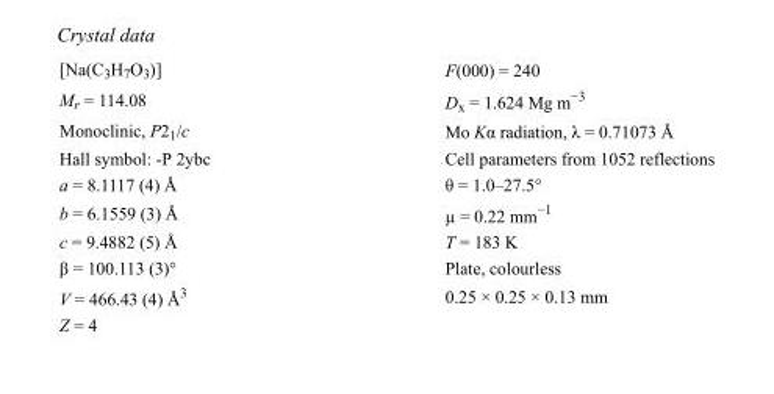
<table><tbody><tr><td>[Na(C<sub>3</sub>H<sub>7</sub>O<sub>3</sub>)]</td><td>F(000) = 240</td></tr><tr><td>M<sub>r</sub> = 114.08</td><td>D<sub>x</sub> = 1.624 Mg m<sup>−3</sup></td></tr><tr><td>Monoclinic, P2<sub>1</sub>/c</td><td>Mo Kα radiation, λ = 0.71073 Å</td></tr><tr><td>Hall symbol: -P 2ybc</td><td>Cell parameters from 1052 reflections</td></tr><tr><td>a = 8.1117 (4) Å</td><td>θ = 1.0–27.5°</td></tr><tr><td>b = 6.1559 (3) Å</td><td>µ = 0.22 mm<sup>−1</sup></td></tr><tr><td>c = 9.4882 (5) Å</td><td>T = 183 K</td></tr><tr><td>β = 100.113 (3)°</td><td>Plate, colourless</td></tr><tr><td>V = 466.43 (4) Å<sup>3</sup></td><td>0.25 × 0.25 × 0.13 mm</td></tr><tr><td>Z = 4</td><td></td></tr></tbody></table>